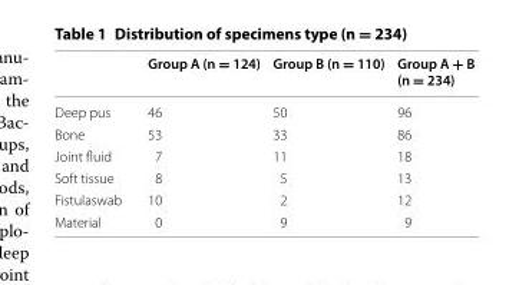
<table><thead><tr><td></td><td>Group A (n = 124)</td><td>Group B (n = 110)</td><td>Group A + B (n = 234)</td></tr></thead><tbody><tr><td>Deep pus</td><td>46</td><td>50</td><td>96</td></tr><tr><td>Bone</td><td>53</td><td>33</td><td>86</td></tr><tr><td>Joint fluid</td><td>7</td><td>11</td><td>18</td></tr><tr><td>Soft tissue</td><td>8</td><td>5</td><td>13</td></tr><tr><td>Fistulaswab</td><td>10</td><td>2</td><td>12</td></tr><tr><td>Material</td><td>0</td><td>9</td><td>9</td></tr></tbody></table>